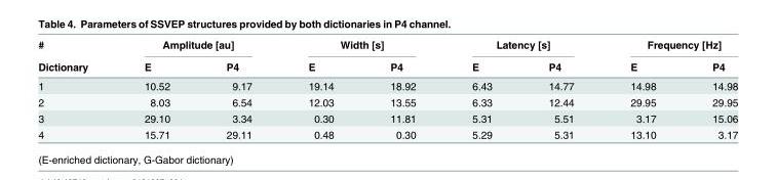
<table><thead><tr><td rowspan="2"># Dictionary</td><td colspan="2">Amplitude [au]</td><td colspan="2">Width [s]</td><td colspan="2">Latency [s]</td><td colspan="2">Frequency [Hz]</td></tr><tr><td>E</td><td>P4</td><td>E</td><td>P4</td><td>E</td><td>P4</td><td>E</td><td>P4</td></tr></thead><tbody><tr><td>1</td><td>10.52</td><td>9.17</td><td>19.14</td><td>18.92</td><td>6.43</td><td>14.77</td><td>14.98</td><td>14.98</td></tr><tr><td>2</td><td>8.03</td><td>6.54</td><td>12.03</td><td>13.55</td><td>6.33</td><td>12.44</td><td>29.95</td><td>29.95</td></tr><tr><td>3</td><td>29.10</td><td>3.34</td><td>0.30</td><td>11.81</td><td>5.31</td><td>5.51</td><td>3.17</td><td>15.06</td></tr><tr><td>4</td><td>15.71</td><td>29.11</td><td>0.48</td><td>0.30</td><td>5.29</td><td>5.31</td><td>13.10</td><td>3.17</td></tr></tbody></table>